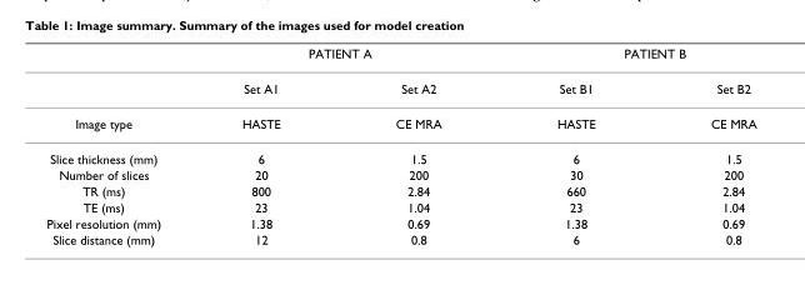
<table><thead><tr><td rowspan="2"></td><td colspan="2">PATIENT A</td><td colspan="2">PATIENT B</td></tr><tr><td>Set A1</td><td>Set A2</td><td>Set B1</td><td>Set B2</td></tr></thead><tbody><tr><td>Image type</td><td>HASTE</td><td>CE MRA</td><td>HASTE</td><td>CE MRA</td></tr><tr><td>Slice thickness (mm)</td><td>6</td><td>1.5</td><td>6</td><td>1.5</td></tr><tr><td>Number of slices</td><td>20</td><td>200</td><td>30</td><td>200</td></tr><tr><td>TR (ms)</td><td>800</td><td>2.84</td><td>660</td><td>2.84</td></tr><tr><td>TE (ms)</td><td>23</td><td>1.04</td><td>23</td><td>1.04</td></tr><tr><td>Pixel resolution (mm)</td><td>1.38</td><td>0.69</td><td>1.38</td><td>0.69</td></tr><tr><td>Slice distance (mm)</td><td>12</td><td>0.8</td><td>6</td><td>0.8</td></tr></tbody></table>